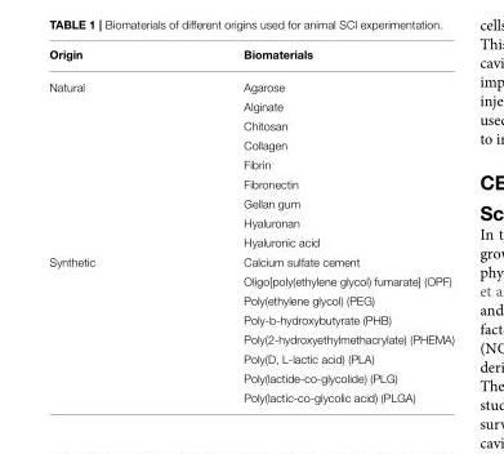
<table><thead><tr><td>Origin</td><td>Biomaterials</td></tr></thead><tbody><tr><td rowspan="9">Natural</td><td>Agarose</td></tr><tr><td>Alginate</td></tr><tr><td>Chitosan</td></tr><tr><td>Collagen</td></tr><tr><td>Fibrin</td></tr><tr><td>Fibronectin</td></tr><tr><td>Gellan gum</td></tr><tr><td>Hyaluronan</td></tr><tr><td>Hyaluronic acid</td></tr><tr><td rowspan="8">Synthetic</td><td>Calcium sulfate cement</td></tr><tr><td>Oligo[poly(ethylene glycol) fumarate] (OPF)</td></tr><tr><td>Poly(ethylene glycol) (PEG)</td></tr><tr><td>Poly-b-hydroxybutyrate (PHB)</td></tr><tr><td>Poly(2-hydroxyethylmethacrylate) (PHEMA)</td></tr><tr><td>Poly(D, L-lactic acid) (PLA)</td></tr><tr><td>Poly(lactide-co-glycolide) (PLG)</td></tr><tr><td>Poly(lactic-co-glycolic acid) (PLGA)</td></tr></tbody></table>